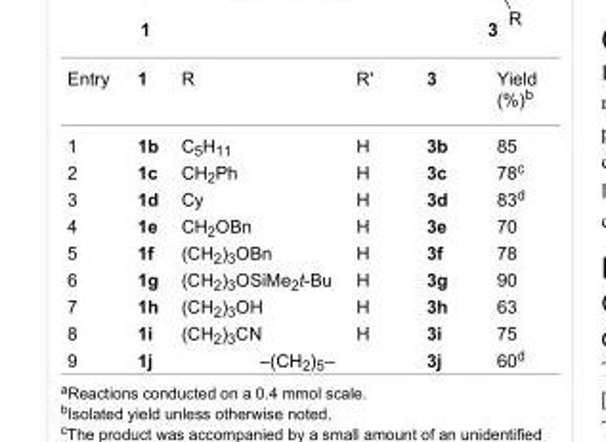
<table><tbody><tr><td>Entry</td><td>1</td><td>R</td><td>R&#x27;</td><td>3</td><td>Yield (%)<sup>b</sup></td></tr><tr><td>1</td><td>1b</td><td>C<sub>5</sub>H<sub>11</sub></td><td>H</td><td>3b</td><td>85</td></tr><tr><td>2</td><td>1c</td><td>CH<sub>2</sub>Ph</td><td>H</td><td>3c</td><td>78<sup>c</sup></td></tr><tr><td>3</td><td>1d</td><td>Cy</td><td>H</td><td>3d</td><td>83<sup>d</sup></td></tr><tr><td>4</td><td>1e</td><td>CH<sub>2</sub>OBn</td><td>H</td><td>3e</td><td>70</td></tr><tr><td>5</td><td>1f</td><td>(CH<sub>2</sub>)<sub>3</sub>OBn</td><td>H</td><td>3f</td><td>78</td></tr><tr><td>6</td><td>1g</td><td>(CH<sub>2</sub>)<sub>3</sub>OSiMe<sub>2</sub>t-Bu</td><td>H</td><td>3g</td><td>90</td></tr><tr><td>7</td><td>1h</td><td>(CH<sub>2</sub>)<sub>3</sub>OH</td><td>H</td><td>3h</td><td>63</td></tr><tr><td>8</td><td>1i</td><td>(CH<sub>2</sub>)<sub>3</sub>CN</td><td>H</td><td>3i</td><td>75</td></tr><tr><td>9</td><td>1j</td><td colspan="2">–(CH<sub>2</sub>)<sub>5</sub>–</td><td>3j</td><td>60<sup>d</sup></td></tr></tbody></table>